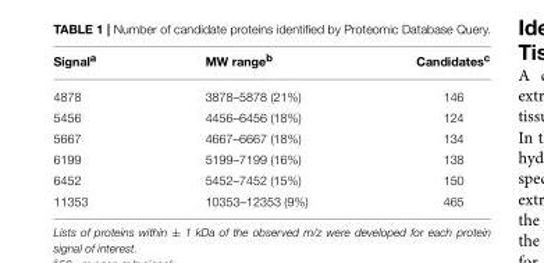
<table><thead><tr><td>Signal<sup>a</sup></td><td>MW range<sup>b</sup></td><td>Candidates<sup>c</sup></td></tr></thead><tbody><tr><td>4878</td><td>3878–5878 (21%)</td><td>146</td></tr><tr><td>5456</td><td>4456–6456 (18%)</td><td>124</td></tr><tr><td>5667</td><td>4667–6667 (18%)</td><td>134</td></tr><tr><td>6199</td><td>5199–7199 (16%)</td><td>138</td></tr><tr><td>6452</td><td>5452–7452 (15%)</td><td>150</td></tr><tr><td>11353</td><td>10353–12353 (9%)</td><td>465</td></tr></tbody></table>